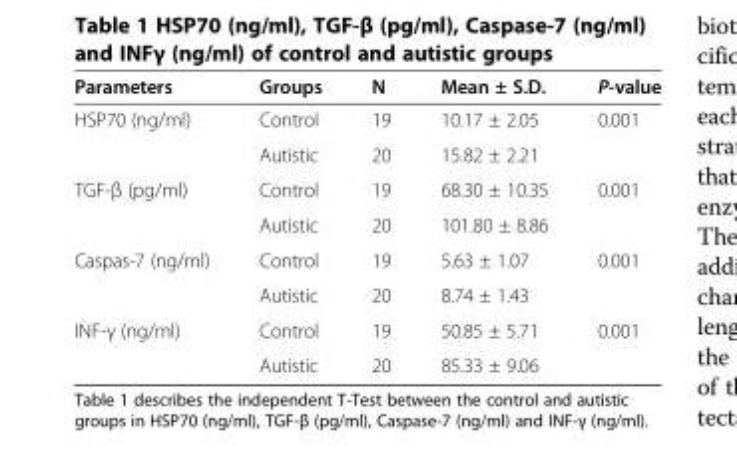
<table><thead><tr><td>Parameters</td><td>Groups</td><td>N</td><td>Mean ± S.D.</td><td>P-value</td></tr></thead><tbody><tr><td rowspan="2">HSP70 (ng/ml)</td><td>Control</td><td>19</td><td>10.17 ± 2.05</td><td>0.001</td></tr><tr><td>Autistic</td><td>20</td><td>15.82 ± 2.21</td><td></td></tr><tr><td rowspan="2">TGF-β (pg/ml)</td><td>Control</td><td>19</td><td>68.30 ± 10.35</td><td>0.001</td></tr><tr><td>Autistic</td><td>20</td><td>101.80 ± 8.86</td><td></td></tr><tr><td rowspan="2">Caspas-7 (ng/ml)</td><td>Control</td><td>19</td><td>5.63 ± 1.07</td><td>0.001</td></tr><tr><td>Autistic</td><td>20</td><td>8.74 ± 1.43</td><td></td></tr><tr><td rowspan="2">INF-γ (ng/ml)</td><td>Control</td><td>19</td><td>50.85 ± 5.71</td><td>0.001</td></tr><tr><td>Autistic</td><td>20</td><td>85.33 ± 9.06</td><td></td></tr></tbody></table>